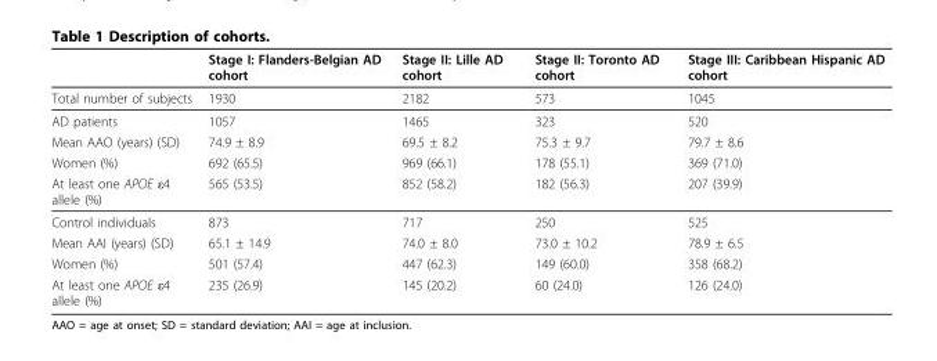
<table><thead><tr><td></td><td>Stage I: Flanders-Belgian AD cohort</td><td>Stage II: Lille AD cohort</td><td>Stage II: Toronto AD cohort</td><td>Stage III: Caribbean Hispanic AD cohort</td></tr></thead><tbody><tr><td>Total number of subjects</td><td>1930</td><td>2182</td><td>573</td><td>1045</td></tr><tr><td>AD patients</td><td>1057</td><td>1465</td><td>323</td><td>520</td></tr><tr><td>Mean AAO (years) (SD)</td><td>74.9 ± 8.9</td><td>69.5 ± 8.2</td><td>75.3 ± 9.7</td><td>79.7 ± 8.6</td></tr><tr><td>Women (%)</td><td>692 (65.5)</td><td>969 (66.1)</td><td>178 (55.1)</td><td>369 (71.0)</td></tr><tr><td>At least one APOE ε4 allele (%)</td><td>565 (53.5)</td><td>852 (58.2)</td><td>182 (56.3)</td><td>207 (39.9)</td></tr><tr><td>Control individuals</td><td>873</td><td>717</td><td>250</td><td>525</td></tr><tr><td>Mean AAI (years) (SD)</td><td>65.1 ± 14.9</td><td>74.0 ± 8.0</td><td>73.0 ± 10.2</td><td>78.9 ± 6.5</td></tr><tr><td>Women (%)</td><td>501 (57.4)</td><td>447 (62.3)</td><td>149 (60.0)</td><td>358 (68.2)</td></tr><tr><td>At least one APOE ε4 allele (%)</td><td>235 (26.9)</td><td>145 (20.2)</td><td>60 (24.0)</td><td>126 (24.0)</td></tr></tbody></table>